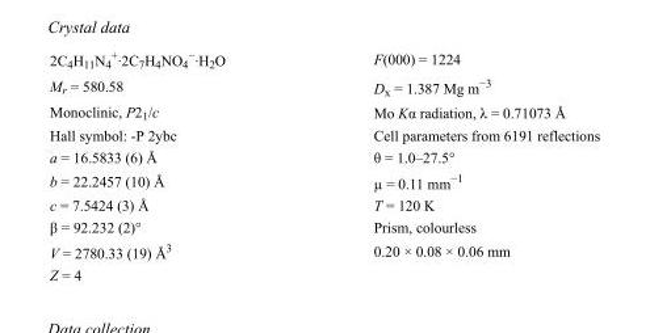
<table><tbody><tr><td>2C<sub>4</sub>H<sub>11</sub>N<sub>4</sub> <sup>+</sup>·2C<sub>7</sub>H<sub>4</sub>NO<sub>4</sub> <sup>−</sup>·H<sub>2</sub>O</td><td>F(000) = 1224</td></tr><tr><td>M<sub>r</sub> = 580.58</td><td>D<sub>x</sub> = 1.387 Mg m<sup>−3</sup></td></tr><tr><td>Monoclinic, P2<sub>1</sub>/c</td><td>Mo Kα radiation, λ = 0.71073 Å</td></tr><tr><td>Hall symbol: -P 2ybc</td><td>Cell parameters from 6191 reflections</td></tr><tr><td>a = 16.5833 (6) Å</td><td>θ = 1.0–27.5°</td></tr><tr><td>b = 22.2457 (10) Å</td><td>µ = 0.11 mm<sup>−1</sup></td></tr><tr><td>c = 7.5424 (3) Å</td><td>T = 120 K</td></tr><tr><td>β = 92.232 (2)°</td><td>Prism, colourless</td></tr><tr><td>V = 2780.33 (19) Å<sup>3</sup></td><td>0.20 × 0.08 × 0.06 mm</td></tr><tr><td>Z = 4</td><td></td></tr></tbody></table>